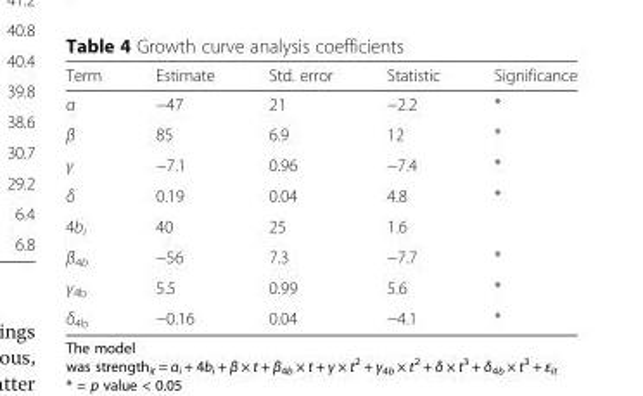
<table><thead><tr><td>Term</td><td>Estimate</td><td>Std. error</td><td>Statistic</td><td>Significance</td></tr></thead><tbody><tr><td>α</td><td>−47</td><td>21</td><td>−2.2</td><td>*</td></tr><tr><td>β</td><td>85</td><td>6.9</td><td>12</td><td>*</td></tr><tr><td>γ</td><td>−7.1</td><td>0.96</td><td>−7.4</td><td>*</td></tr><tr><td>δ</td><td>0.19</td><td>0.04</td><td>4.8</td><td>*</td></tr><tr><td>4b<sub>i</sub></td><td>40</td><td>25</td><td>1.6</td><td></td></tr><tr><td>β<sub>4b</sub></td><td>−56</td><td>7.3</td><td>−7.7</td><td>*</td></tr><tr><td>γ<sub>4b</sub></td><td>5.5</td><td>0.99</td><td>5.6</td><td>*</td></tr><tr><td>δ<sub>4b</sub></td><td>−0.16</td><td>0.04</td><td>−4.1</td><td>*</td></tr></tbody></table>